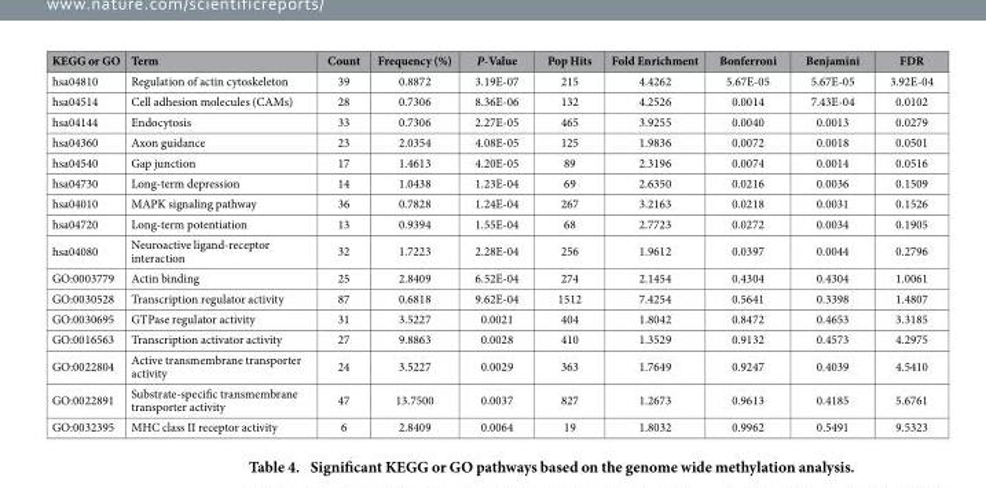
<table><thead><tr><td>KEGG or GO</td><td>Term</td><td>Count</td><td>Frequency (%)</td><td>P-Value</td><td>Pop Hits</td><td>Fold Enrichment</td><td>Bonferroni</td><td>Benjamini</td><td>FDR</td></tr></thead><tbody><tr><td>hsa04810</td><td>Regulation of actin cytoskeleton</td><td>39</td><td>0.8872</td><td>3.19E-07</td><td>215</td><td>4.4262</td><td>5.67E-05</td><td>5.67E-05</td><td>3.92E-04</td></tr><tr><td>hsa04514</td><td>Cell adhesion molecules (CAMs)</td><td>28</td><td>0.7306</td><td>8.36E-06</td><td>132</td><td>4.2526</td><td>0.0014</td><td>7.43E-04</td><td>0.0102</td></tr><tr><td>hsa04144</td><td>Endocytosis</td><td>33</td><td>0.7306</td><td>2.27E-05</td><td>465</td><td>3.9255</td><td>0.0040</td><td>0.0013</td><td>0.0279</td></tr><tr><td>hsa04360</td><td>Axon guidance</td><td>23</td><td>2.0354</td><td>4.08E-05</td><td>125</td><td>1.9836</td><td>0.0072</td><td>0.0018</td><td>0.0501</td></tr><tr><td>hsa04540</td><td>Gap junction</td><td>17</td><td>1.4613</td><td>4.20E-05</td><td>89</td><td>2.3196</td><td>0.0074</td><td>0.0014</td><td>0.0516</td></tr><tr><td>hsa04730</td><td>Long-term depression</td><td>14</td><td>1.0438</td><td>1.23E-04</td><td>69</td><td>2.6350</td><td>0.0216</td><td>0.0036</td><td>0.1509</td></tr><tr><td>hsa04010</td><td>MAPK signaling pathway</td><td>36</td><td>0.7828</td><td>1.24E-04</td><td>267</td><td>3.2163</td><td>0.0218</td><td>0.0031</td><td>0.1526</td></tr><tr><td>hsa04720</td><td>Long-term potentiation</td><td>13</td><td>0.9394</td><td>1.55E-04</td><td>68</td><td>2.7723</td><td>0.0272</td><td>0.0034</td><td>0.1905</td></tr><tr><td>hsa04080</td><td>Neuroactive ligand-receptor interaction</td><td>32</td><td>1.7223</td><td>2.28E-04</td><td>256</td><td>1.9612</td><td>0.0397</td><td>0.0044</td><td>0.2796</td></tr><tr><td>GO:0003779</td><td>Actin binding</td><td>25</td><td>2.8409</td><td>6.52E-04</td><td>274</td><td>2.1454</td><td>0.4304</td><td>0.4304</td><td>1.0061</td></tr><tr><td>GO:0030528</td><td>Transcription regulator activity</td><td>87</td><td>0.6818</td><td>9.62E-04</td><td>1512</td><td>7.4254</td><td>0.5641</td><td>0.3398</td><td>1.4807</td></tr><tr><td>GO:0030695</td><td>GTPase regulator activity</td><td>31</td><td>3.5227</td><td>0.0021</td><td>404</td><td>1.8042</td><td>0.8472</td><td>0.4653</td><td>3.3185</td></tr><tr><td>GO:0016563</td><td>Transcription activator activity</td><td>27</td><td>9.8863</td><td>0.0028</td><td>410</td><td>1.3529</td><td>0.9132</td><td>0.4573</td><td>4.2975</td></tr><tr><td>GO:0022804</td><td>Active transmembrane transporter activity</td><td>24</td><td>3.5227</td><td>0.0029</td><td>363</td><td>1.7649</td><td>0.9247</td><td>0.4039</td><td>4.5410</td></tr><tr><td>GO:0022891</td><td>Substrate-specific transmembrane transporter activity</td><td>47</td><td>13.7500</td><td>0.0037</td><td>827</td><td>1.2673</td><td>0.9613</td><td>0.4185</td><td>5.6761</td></tr><tr><td>GO:0032395</td><td>MHC class II receptor activity</td><td>6</td><td>2.8409</td><td>0.0064</td><td>19</td><td>1.8032</td><td>0.9962</td><td>0.5491</td><td>9.5323</td></tr></tbody></table>